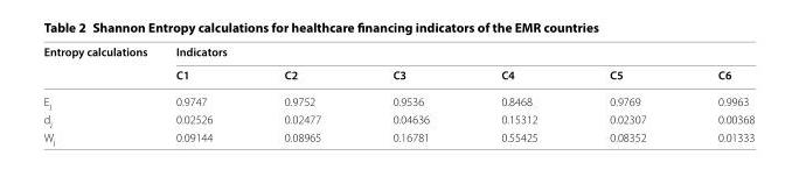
<table><thead><tr><td rowspan="2">Entropy calculations</td><td colspan="6">Indicators</td></tr><tr><td>C1</td><td>C2</td><td>C3</td><td>C4</td><td>C5</td><td>C6</td></tr></thead><tbody><tr><td>E<sub>j</sub></td><td>0.9747</td><td>0.9752</td><td>0.9536</td><td>0.8468</td><td>0.9769</td><td>0.9963</td></tr><tr><td>d<sub>j</sub></td><td>0.02526</td><td>0.02477</td><td>0.04636</td><td>0.15312</td><td>0.02307</td><td>0.00368</td></tr><tr><td>W<sub>j</sub></td><td>0.09144</td><td>0.08965</td><td>0.16781</td><td>0.55425</td><td>0.08352</td><td>0.01333</td></tr></tbody></table>